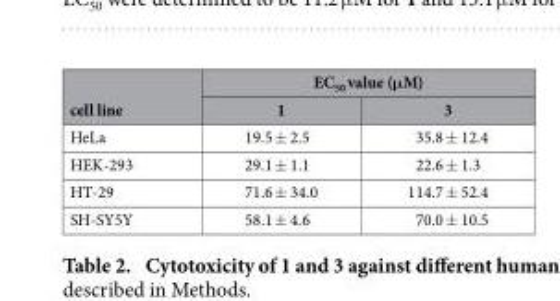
<table><thead><tr><td rowspan="2">cell line</td><td colspan="2">EC<sub>50</sub> value (μM)</td></tr><tr><td>1</td><td>3</td></tr></thead><tbody><tr><td>HeLa</td><td>19.5 ± 2.5</td><td>35.8 ± 12.4</td></tr><tr><td>HEK-293</td><td>29.1 ± 1.1</td><td>22.6 ± 1.3</td></tr><tr><td>HT-29</td><td>71.6 ± 34.0</td><td>114.7 ± 52.4</td></tr><tr><td>SH-SY5Y</td><td>58.1 ± 4.6</td><td>70.0 ± 10.5</td></tr></tbody></table>